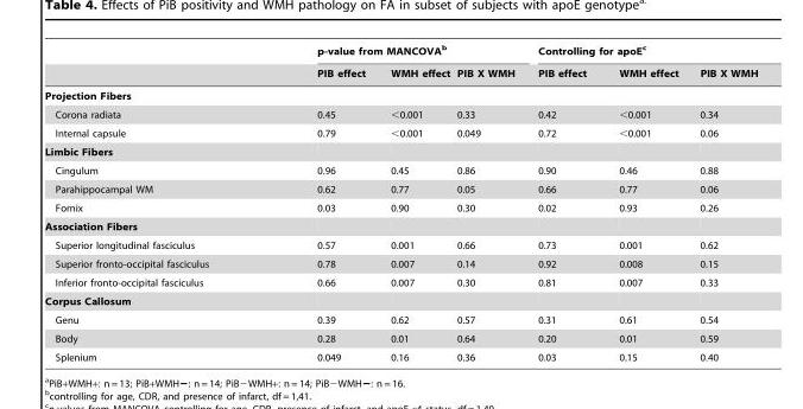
<table><thead><tr><td rowspan="2"></td><td colspan="3">p-value from MANCOVA<sup>b</sup></td><td colspan="3">Controlling for apoE<sup>c</sup></td></tr><tr><td>PIB effect</td><td>WMH effect</td><td>PIB X WMH</td><td>PIB effect</td><td>WMH effect</td><td>PIB X WMH</td></tr></thead><tbody><tr><td colspan="7">Projection Fibers</td></tr><tr><td>Corona radiata</td><td>0.45</td><td>&lt;0.001</td><td>0.33</td><td>0.42</td><td>&lt;0.001</td><td>0.34</td></tr><tr><td>Internal capsule</td><td>0.79</td><td>&lt;0.001</td><td>0.049</td><td>0.72</td><td>&lt;0.001</td><td>0.06</td></tr><tr><td colspan="7">Limbic Fibers</td></tr><tr><td>Cingulum</td><td>0.96</td><td>0.45</td><td>0.86</td><td>0.90</td><td>0.46</td><td>0.88</td></tr><tr><td>Parahippocampal WM</td><td>0.62</td><td>0.77</td><td>0.05</td><td>0.66</td><td>0.77</td><td>0.06</td></tr><tr><td>Fornix</td><td>0.03</td><td>0.90</td><td>0.30</td><td>0.02</td><td>0.93</td><td>0.26</td></tr><tr><td colspan="7">Association Fibers</td></tr><tr><td>Superior longitudinal fasciculus</td><td>0.57</td><td>0.001</td><td>0.66</td><td>0.73</td><td>0.001</td><td>0.62</td></tr><tr><td>Superior fronto-occipital fasciculus</td><td>0.78</td><td>0.007</td><td>0.14</td><td>0.92</td><td>0.008</td><td>0.15</td></tr><tr><td>Inferior fronto-occipital fasciculus</td><td>0.66</td><td>0.007</td><td>0.30</td><td>0.81</td><td>0.007</td><td>0.33</td></tr><tr><td colspan="7">Corpus Callosum</td></tr><tr><td>Genu</td><td>0.39</td><td>0.62</td><td>0.57</td><td>0.31</td><td>0.61</td><td>0.54</td></tr><tr><td>Body</td><td>0.28</td><td>0.01</td><td>0.64</td><td>0.20</td><td>0.01</td><td>0.59</td></tr><tr><td>Splenium</td><td>0.049</td><td>0.16</td><td>0.36</td><td>0.03</td><td>0.15</td><td>0.40</td></tr></tbody></table>